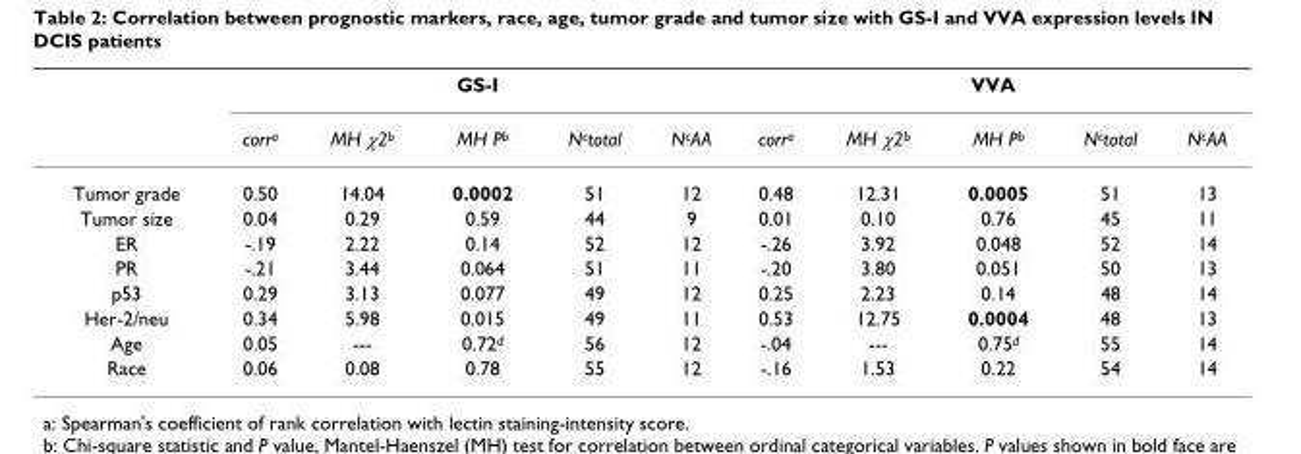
<table><thead><tr><td rowspan="2"></td><td colspan="5">GS-I</td><td colspan="5">VVA</td></tr><tr><td>corr<sup>a</sup></td><td>MH χ2<sup>b</sup></td><td>MH P<sup>b</sup></td><td>N<sup>c</sup>total</td><td>N<sup>c</sup>AA</td><td>corr<sup>a</sup></td><td>MH χ2<sup>b</sup></td><td>MH P<sup>b</sup></td><td>N<sup>c</sup>total</td><td>N<sup>c</sup>AA</td></tr></thead><tbody><tr><td>Tumor grade</td><td>0.50</td><td>14.04</td><td>0.0002</td><td>51</td><td>12</td><td>0.48</td><td>12.31</td><td>0.0005</td><td>51</td><td>13</td></tr><tr><td>Tumor size</td><td>0.04</td><td>0.29</td><td>0.59</td><td>44</td><td>9</td><td>0.01</td><td>0.10</td><td>0.76</td><td>45</td><td>11</td></tr><tr><td>ER</td><td>-.19</td><td>2.22</td><td>0.14</td><td>52</td><td>12</td><td>-.26</td><td>3.92</td><td>0.048</td><td>52</td><td>14</td></tr><tr><td>PR</td><td>-.21</td><td>3.44</td><td>0.064</td><td>51</td><td>11</td><td>-.20</td><td>3.80</td><td>0.051</td><td>50</td><td>13</td></tr><tr><td>p53</td><td>0.29</td><td>3.13</td><td>0.077</td><td>49</td><td>12</td><td>0.25</td><td>2.23</td><td>0.14</td><td>48</td><td>14</td></tr><tr><td>Her-2/neu</td><td>0.34</td><td>5.98</td><td>0.015</td><td>49</td><td>11</td><td>0.53</td><td>12.75</td><td>0.0004</td><td>48</td><td>13</td></tr><tr><td>Age</td><td>0.05</td><td>---</td><td>0.72<sup>d</sup></td><td>56</td><td>12</td><td>-.04</td><td>---</td><td>0.75<sup>d</sup></td><td>55</td><td>14</td></tr><tr><td>Race</td><td>0.06</td><td>0.08</td><td>0.78</td><td>55</td><td>12</td><td>-.16</td><td>1.53</td><td>0.22</td><td>54</td><td>14</td></tr></tbody></table>